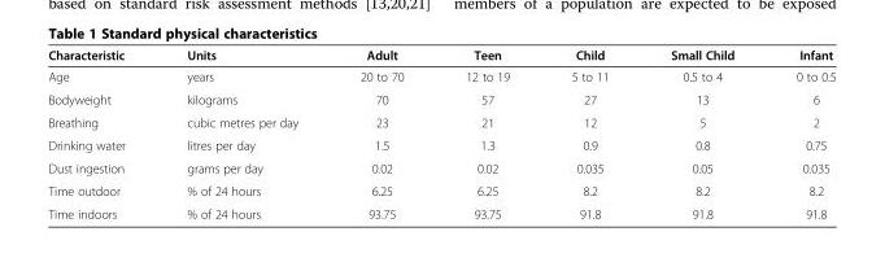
<table><thead><tr><td>Characteristic</td><td>Units</td><td>Adult</td><td>Teen</td><td>Child</td><td>Small Child</td><td>Infant</td></tr></thead><tbody><tr><td>Age</td><td>years</td><td>20 to 70</td><td>12 to 19</td><td>5 to 11</td><td>0.5 to 4</td><td>0 to 0.5</td></tr><tr><td>Bodyweight</td><td>kilograms</td><td>70</td><td>57</td><td>27</td><td>13</td><td>6</td></tr><tr><td>Breathing</td><td>cubic metres per day</td><td>23</td><td>21</td><td>12</td><td>5</td><td>2</td></tr><tr><td>Drinking water</td><td>litres per day</td><td>1.5</td><td>1.3</td><td>0.9</td><td>0.8</td><td>0.75</td></tr><tr><td>Dust ingestion</td><td>grams per day</td><td>0.02</td><td>0.02</td><td>0.035</td><td>0.05</td><td>0.035</td></tr><tr><td>Time outdoor</td><td>% of 24 hours</td><td>6.25</td><td>6.25</td><td>8.2</td><td>8.2</td><td>8.2</td></tr><tr><td>Time indoors</td><td>% of 24 hours</td><td>93.75</td><td>93.75</td><td>91.8</td><td>91.8</td><td>91.8</td></tr></tbody></table>